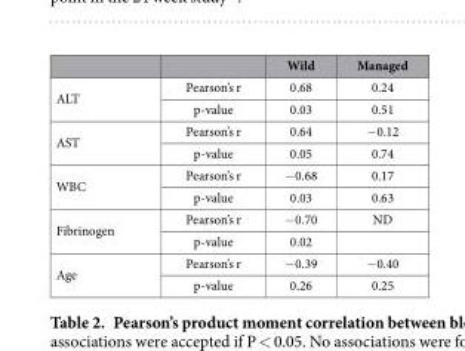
<table><thead><tr><td></td><td></td><td>Wild</td><td>Managed</td></tr></thead><tbody><tr><td rowspan="2">ALT</td><td>Pearson’s r</td><td>0.68</td><td>0.24</td></tr><tr><td>p-value</td><td>0.03</td><td>0.51</td></tr><tr><td rowspan="2">AST</td><td>Pearson’s r</td><td>0.64</td><td>− 0.12</td></tr><tr><td>p-value</td><td>0.05</td><td>0.74</td></tr><tr><td rowspan="2">WBC</td><td>Pearson’s r</td><td>− 0.68</td><td>0.17</td></tr><tr><td>p-value</td><td>0.03</td><td>0.63</td></tr><tr><td rowspan="2">Fibrinogen</td><td>Pearson’s r</td><td>− 0.70</td><td>ND</td></tr><tr><td>p-value</td><td>0.02</td><td></td></tr><tr><td rowspan="2">Age</td><td>Pearson’s r</td><td>− 0.39</td><td>− 0.40</td></tr><tr><td>p-value</td><td>0.26</td><td>0.25</td></tr></tbody></table>